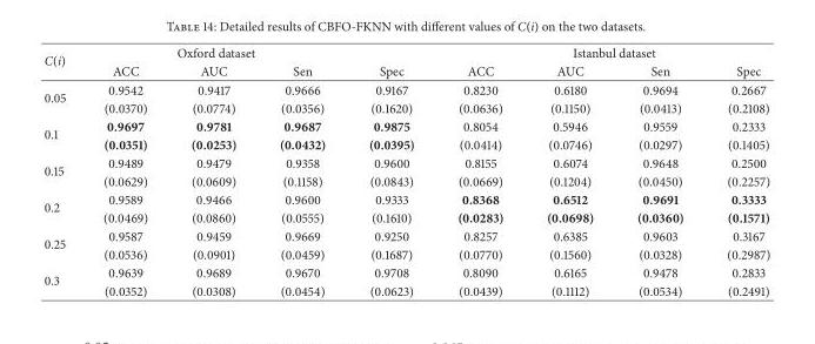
<table><thead><tr><td rowspan="2">C(i)</td><td colspan="3">Oxford dataset</td><td rowspan="2">Spec</td><td colspan="4">Istanbul dataset</td></tr><tr><td>ACC</td><td>AUC</td><td>Sen</td><td>ACC</td><td>AUC</td><td>Sen</td><td>Spec</td></tr></thead><tbody><tr><td rowspan="2">0.05</td><td>0.9542</td><td>0.9417</td><td>0.9666</td><td>0.9167</td><td>0.8230</td><td>0.6180</td><td>0.9694</td><td>0.2667</td></tr><tr><td>(0.0370)</td><td>(0.0774)</td><td>(0.0356)</td><td>(0.1620)</td><td>(0.0636)</td><td>(0.1150)</td><td>(0.0413)</td><td>(0.2108)</td></tr><tr><td rowspan="2">0.1</td><td>0.9697</td><td>0.9781</td><td>0.9687</td><td>0.9875</td><td>0.8054</td><td>0.5946</td><td>0.9559</td><td>0.2333</td></tr><tr><td>(0.0351)</td><td>(0.0253)</td><td>(0.0432)</td><td>(0.0395)</td><td>(0.0414)</td><td>(0.0746)</td><td>(0.0297)</td><td>(0.1405)</td></tr><tr><td rowspan="2">0.15</td><td>0.9489</td><td>0.9479</td><td>0.9358</td><td>0.9600</td><td>0.8155</td><td>0.6074</td><td>0.9648</td><td>0.2500</td></tr><tr><td>(0.0629)</td><td>(0.0609)</td><td>(0.1158)</td><td>(0.0843)</td><td>(0.0669)</td><td>(0.1204)</td><td>(0.0450)</td><td>(0.2257)</td></tr><tr><td rowspan="2">0.2</td><td>0.9589</td><td>0.9466</td><td>0.9600</td><td>0.9333</td><td>0.8368</td><td>0.6512</td><td>0.9691</td><td>0.3333</td></tr><tr><td>(0.0469)</td><td>(0.0860)</td><td>(0.0555)</td><td>(0.1610)</td><td>(0.0283)</td><td>(0.0698)</td><td>(0.0360)</td><td>(0.1571)</td></tr><tr><td rowspan="2">0.25</td><td>0.9587</td><td>0.9459</td><td>0.9669</td><td>0.9250</td><td>0.8257</td><td>0.6385</td><td>0.9603</td><td>0.3167</td></tr><tr><td>(0.0536)</td><td>(0.0901)</td><td>(0.0459)</td><td>(0.1687)</td><td>(0.0770)</td><td>(0.1560)</td><td>(0.0328)</td><td>(0.2987)</td></tr><tr><td rowspan="2">0.3</td><td>0.9639</td><td>0.9689</td><td>0.9670</td><td>0.9708</td><td>0.8090</td><td>0.6165</td><td>0.9478</td><td>0.2833</td></tr><tr><td>(0.0352)</td><td>(0.0308)</td><td>(0.0454)</td><td>(0.0623)</td><td>(0.0439)</td><td>(0.1112)</td><td>(0.0534)</td><td>(0.2491)</td></tr></tbody></table>